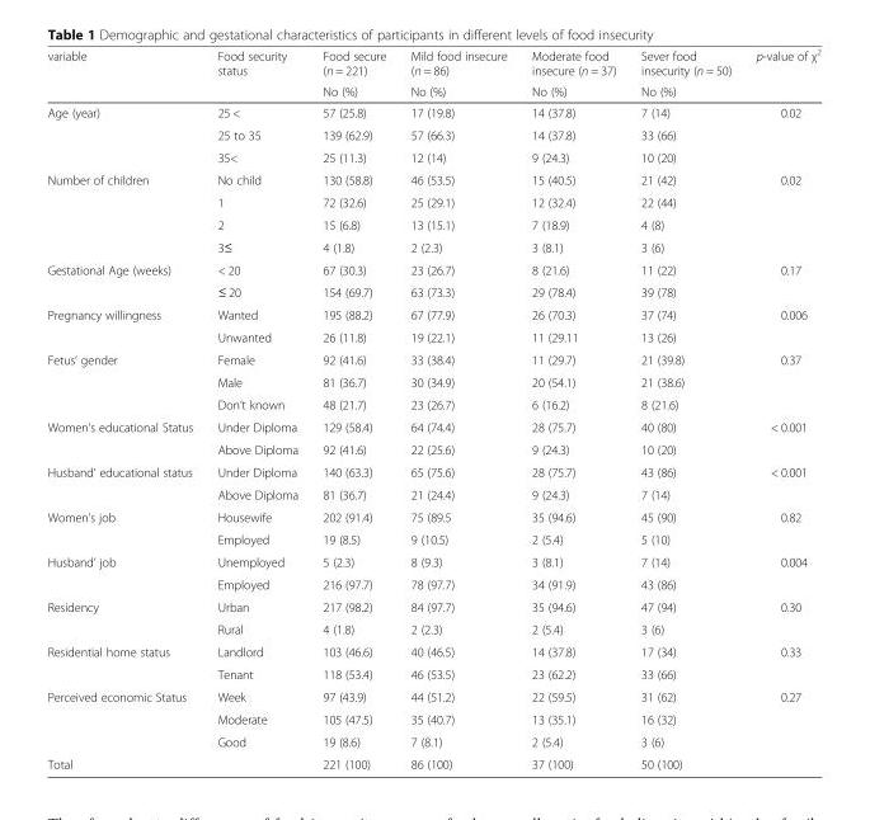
<table><thead><tr><td rowspan="2">variable</td><td rowspan="2">Food security status</td><td rowspan="2">Food secure (n = 221) No (%)</td><td rowspan="2">Mild food insecure (n = 86) No (%)</td><td rowspan="2">Moderate food insecure (n = 37) No (%)</td><td rowspan="2">Sever food insecurity (n = 50) No (%)</td><td rowspan="2">p-value of χ<sup>2</sup></td></tr><tr></tr></thead><tbody><tr><td rowspan="3">Age (year)</td><td>25 &lt;</td><td>57 (25.8)</td><td>17 (19.8)</td><td>14 (37.8)</td><td>7 (14)</td><td rowspan="3">0.02</td></tr><tr><td>25 to 35</td><td>139 (62.9)</td><td>57 (66.3)</td><td>14 (37.8)</td><td>33 (66)</td></tr><tr><td>35&lt;</td><td>25 (11.3)</td><td>12 (14)</td><td>9 (24.3)</td><td>10 (20)</td></tr><tr><td rowspan="4">Number of children</td><td>No child</td><td>130 (58.8)</td><td>46 (53.5)</td><td>15 (40.5)</td><td>21 (42)</td><td rowspan="4">0.02</td></tr><tr><td>1</td><td>72 (32.6)</td><td>25 (29.1)</td><td>12 (32.4)</td><td>22 (44)</td></tr><tr><td>2</td><td>15 (6.8)</td><td>13 (15.1)</td><td>7 (18.9)</td><td>4 (8)</td></tr><tr><td>3≤</td><td>4 (1.8)</td><td>2 (2.3)</td><td>3 (8.1)</td><td>3 (6)</td></tr><tr><td rowspan="2">Gestational Age (weeks)</td><td>&lt; 20</td><td>67 (30.3)</td><td>23 (26.7)</td><td>8 (21.6)</td><td>11 (22)</td><td rowspan="2">0.17</td></tr><tr><td>≤ 20</td><td>154 (69.7)</td><td>63 (73.3)</td><td>29 (78.4)</td><td>39 (78)</td></tr><tr><td rowspan="2">Pregnancy willingness</td><td>Wanted</td><td>195 (88.2)</td><td>67 (77.9)</td><td>26 (70.3)</td><td>37 (74)</td><td rowspan="2">0.006</td></tr><tr><td>Unwanted</td><td>26 (11.8)</td><td>19 (22.1)</td><td>11 (29.11</td><td>13 (26)</td></tr><tr><td rowspan="3">Fetus’ gender</td><td>Female</td><td>92 (41.6)</td><td>33 (38.4)</td><td>11 (29.7)</td><td>21 (39.8)</td><td rowspan="3">0.37</td></tr><tr><td>Male</td><td>81 (36.7)</td><td>30 (34.9)</td><td>20 (54.1)</td><td>21 (38.6)</td></tr><tr><td>Don’t known</td><td>48 (21.7)</td><td>23 (26.7)</td><td>6 (16.2)</td><td>8 (21.6)</td></tr><tr><td rowspan="2">Women’s educational Status</td><td>Under Diploma</td><td>129 (58.4)</td><td>64 (74.4)</td><td>28 (75.7)</td><td>40 (80)</td><td rowspan="2">&lt; 0.001</td></tr><tr><td>Above Diploma</td><td>92 (41.6)</td><td>22 (25.6)</td><td>9 (24.3)</td><td>10 (20)</td></tr><tr><td rowspan="2">Husband’ educational status</td><td>Under Diploma</td><td>140 (63.3)</td><td>65 (75.6)</td><td>28 (75.7)</td><td>43 (86)</td><td rowspan="2">&lt; 0.001</td></tr><tr><td>Above Diploma</td><td>81 (36.7)</td><td>21 (24.4)</td><td>9 (24.3)</td><td>7 (14)</td></tr><tr><td rowspan="2">Women’s job</td><td>Housewife</td><td>202 (91.4)</td><td>75 (89.5</td><td>35 (94.6)</td><td>45 (90)</td><td rowspan="2">0.82</td></tr><tr><td>Employed</td><td>19 (8.5)</td><td>9 (10.5)</td><td>2 (5.4)</td><td>5 (10)</td></tr><tr><td rowspan="2">Husband’ job</td><td>Unemployed</td><td>5 (2.3)</td><td>8 (9.3)</td><td>3 (8.1)</td><td>7 (14)</td><td rowspan="2">0.004</td></tr><tr><td>Employed</td><td>216 (97.7)</td><td>78 (97.7)</td><td>34 (91.9)</td><td>43 (86)</td></tr><tr><td rowspan="2">Residency</td><td>Urban</td><td>217 (98.2)</td><td>84 (97.7)</td><td>35 (94.6)</td><td>47 (94)</td><td rowspan="2">0.30</td></tr><tr><td>Rural</td><td>4 (1.8)</td><td>2 (2.3)</td><td>2 (5.4)</td><td>3 (6)</td></tr><tr><td rowspan="2">Residential home status</td><td>Landlord</td><td>103 (46.6)</td><td>40 (46.5)</td><td>14 (37.8)</td><td>17 (34)</td><td rowspan="2">0.33</td></tr><tr><td>Tenant</td><td>118 (53.4)</td><td>46 (53.5)</td><td>23 (62.2)</td><td>33 (66)</td></tr><tr><td rowspan="3">Perceived economic Status</td><td>Week</td><td>97 (43.9)</td><td>44 (51.2)</td><td>22 (59.5)</td><td>31 (62)</td><td rowspan="3">0.27</td></tr><tr><td>Moderate</td><td>105 (47.5)</td><td>35 (40.7)</td><td>13 (35.1)</td><td>16 (32)</td></tr><tr><td>Good</td><td>19 (8.6)</td><td>7 (8.1)</td><td>2 (5.4)</td><td>3 (6)</td></tr><tr><td colspan="2">Total</td><td>221 (100)</td><td>86 (100)</td><td>37 (100)</td><td>50 (100)</td><td></td></tr></tbody></table>